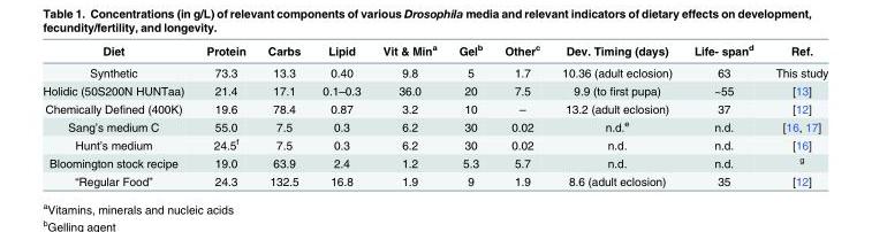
<table><thead><tr><td>Diet</td><td>Protein</td><td>Carbs</td><td>Lipid</td><td>Vit &amp; Min<sup>a</sup></td><td>Gel<sup>b</sup></td><td>Other<sup>c</sup></td><td>Dev. Timing (days)</td><td>Life- span<sup>d</sup></td><td>Ref.</td></tr></thead><tbody><tr><td>Synthetic</td><td>73.3</td><td>13.3</td><td>0.40</td><td>9.8</td><td>5</td><td>1.7</td><td>10.36 (adult eclosion)</td><td>63</td><td>This study</td></tr><tr><td>Holidic (50S200N HUNTaa)</td><td>21.4</td><td>17.1</td><td>0.1–0.3</td><td>36.0</td><td>20</td><td>7.5</td><td>9.9 (to first pupa)</td><td>~55</td><td>[13]</td></tr><tr><td>Chemically Defined (400K)</td><td>19.6</td><td>78.4</td><td>0.87</td><td>3.2</td><td>10</td><td>–</td><td>13.2 (adult eclosion)</td><td>37</td><td>[12]</td></tr><tr><td>Sang’s medium C</td><td>55.0</td><td>7.5</td><td>0.3</td><td>6.2</td><td>30</td><td>0.02</td><td>n.d.<sup>e</sup></td><td>n.d.</td><td>[16, 17]</td></tr><tr><td>Hunt’s medium</td><td>24.5<sup>f</sup></td><td>7.5</td><td>0.3</td><td>6.2</td><td>30</td><td>0.02</td><td>n.d.</td><td>n.d.</td><td>[16]</td></tr><tr><td>Bloomington stock recipe</td><td>19.0</td><td>63.9</td><td>2.4</td><td>1.2</td><td>5.3</td><td>5.7</td><td>n.d.</td><td>n.d.</td><td><sup>g</sup></td></tr><tr><td>“Regular Food”</td><td>24.3</td><td>132.5</td><td>16.8</td><td>1.9</td><td>9</td><td>1.9</td><td>8.6 (adult eclosion)</td><td>35</td><td>[12]</td></tr></tbody></table>